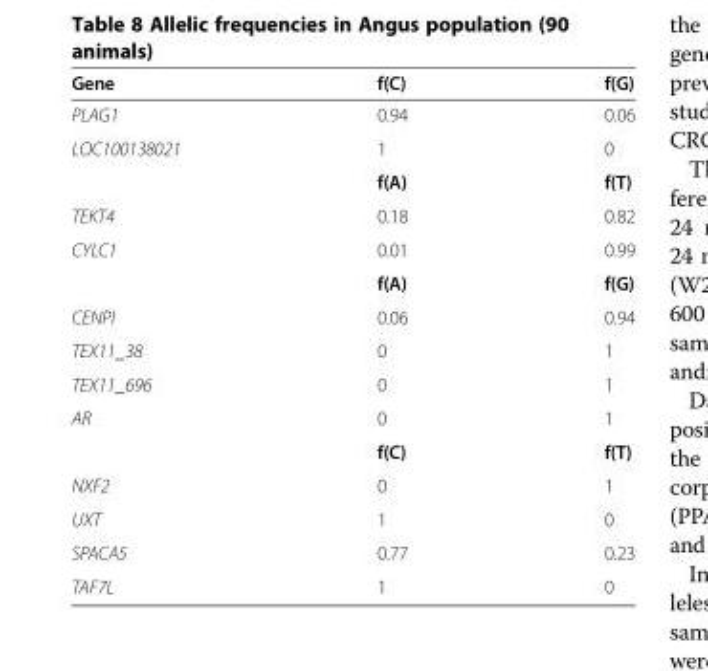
<table><thead><tr><td>Gene</td><td>f(C)</td><td>f(G)</td></tr></thead><tbody><tr><td>PLAG1</td><td>0.94</td><td>0.06</td></tr><tr><td rowspan="2">LOC100138021</td><td>1</td><td>0</td></tr><tr><td>f(A)</td><td>f(T)</td></tr><tr><td>TEKT4</td><td>0.18</td><td>0.82</td></tr><tr><td rowspan="2">CYLC1</td><td>0.01</td><td>0.99</td></tr><tr><td>f(A)</td><td>f(G)</td></tr><tr><td>CENPI</td><td>0.06</td><td>0.94</td></tr><tr><td>TEX11_38</td><td>0</td><td>1</td></tr><tr><td>TEX11_696</td><td>0</td><td>1</td></tr><tr><td rowspan="2">AR</td><td>0</td><td>1</td></tr><tr><td>f(C)</td><td>f(T)</td></tr><tr><td>NXF2</td><td>0</td><td>1</td></tr><tr><td>UXT</td><td>1</td><td>0</td></tr><tr><td>SPACA5</td><td>0.77</td><td>0.23</td></tr><tr><td>TAF7L</td><td>1</td><td>0</td></tr></tbody></table>